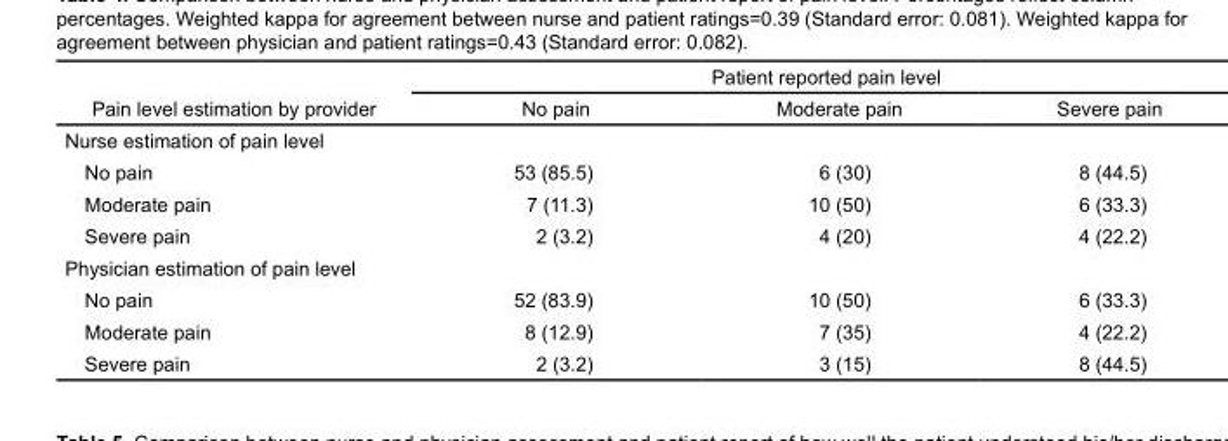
<table><thead><tr><td rowspan="2">Pain level estimation by provider</td><td colspan="3">Patient reported pain level</td></tr><tr><td>No pain</td><td>Moderate pain</td><td>Severe pain</td></tr></thead><tbody><tr><td colspan="4">Nurse estimation of pain level</td></tr><tr><td>No pain</td><td>53 (85.5)</td><td>6 (30)</td><td>8 (44.5)</td></tr><tr><td>Moderate pain</td><td>7 (11.3)</td><td>10 (50)</td><td>6 (33.3)</td></tr><tr><td>Severe pain</td><td>2 (3.2)</td><td>4 (20)</td><td>4 (22.2)</td></tr><tr><td colspan="4">Physician estimation of pain level</td></tr><tr><td>No pain</td><td>52 (83.9)</td><td>10 (50)</td><td>6 (33.3)</td></tr><tr><td>Moderate pain</td><td>8 (12.9)</td><td>7 (35)</td><td>4 (22.2)</td></tr><tr><td>Severe pain</td><td>2 (3.2)</td><td>3 (15)</td><td>8 (44.5)</td></tr></tbody></table>